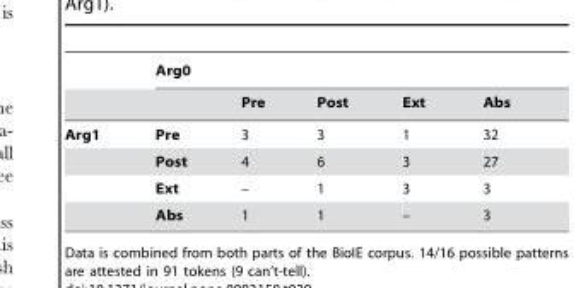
<table><thead><tr><td rowspan="2"></td><td colspan="5">Arg0</td></tr><tr><td></td><td>Pre</td><td>Post</td><td>Ext</td><td>Abs</td></tr></thead><tbody><tr><td rowspan="4">Arg1</td><td>Pre</td><td>3</td><td>3</td><td>1</td><td>32</td></tr><tr><td>Post</td><td>4</td><td>6</td><td>3</td><td>27</td></tr><tr><td>Ext</td><td>–</td><td>1</td><td>3</td><td>3</td></tr><tr><td>Abs</td><td>1</td><td>1</td><td>–</td><td>3</td></tr></tbody></table>